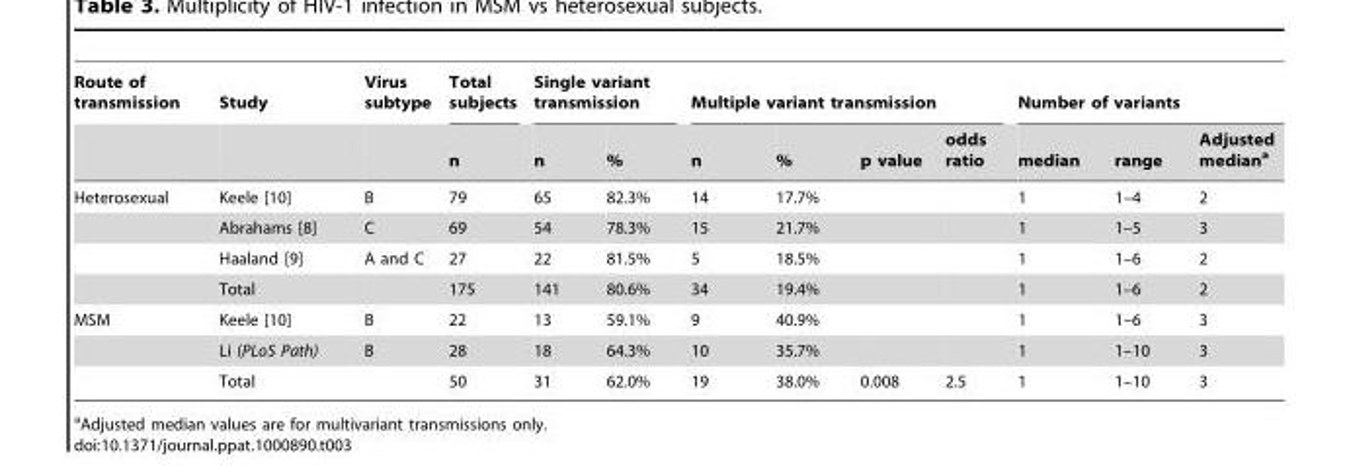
<table><thead><tr><td rowspan="2">Route of transmission</td><td rowspan="2">Study</td><td rowspan="2">Virus subtype</td><td rowspan="2">Total subjects n</td><td colspan="2">Single variant transmission</td><td colspan="4">Multiple variant transmission</td><td colspan="3">Number of variants</td></tr><tr><td>n</td><td>%</td><td>n</td><td>%</td><td>p value</td><td>odds ratio</td><td>median</td><td>range</td><td>Adjusted median<sup>a</sup></td></tr></thead><tbody><tr><td rowspan="4">Heterosexual</td><td>Keele [10]</td><td>B</td><td>79</td><td>65</td><td>82.3%</td><td>14</td><td>17.7%</td><td></td><td></td><td>1</td><td>1–4</td><td>2</td></tr><tr><td>Abrahams [8]</td><td>C</td><td>69</td><td>54</td><td>78.3%</td><td>15</td><td>21.7%</td><td></td><td></td><td>1</td><td>1–5</td><td>3</td></tr><tr><td>Haaland [9]</td><td>A and C</td><td>27</td><td>22</td><td>81.5%</td><td>5</td><td>18.5%</td><td></td><td></td><td>1</td><td>1–6</td><td>2</td></tr><tr><td>Total</td><td></td><td>175</td><td>141</td><td>80.6%</td><td>34</td><td>19.4%</td><td></td><td></td><td>1</td><td>1–6</td><td>2</td></tr><tr><td rowspan="3">MSM</td><td>Keele [10]</td><td>B</td><td>22</td><td>13</td><td>59.1%</td><td>9</td><td>40.9%</td><td></td><td></td><td>1</td><td>1–6</td><td>3</td></tr><tr><td>Li (PLoS Path)</td><td>B</td><td>28</td><td>18</td><td>64.3%</td><td>10</td><td>35.7%</td><td></td><td></td><td>1</td><td>1–10</td><td>3</td></tr><tr><td>Total</td><td></td><td>50</td><td>31</td><td>62.0%</td><td>19</td><td>38.0%</td><td>0.008</td><td>2.5</td><td>1</td><td>1–10</td><td>3</td></tr></tbody></table>